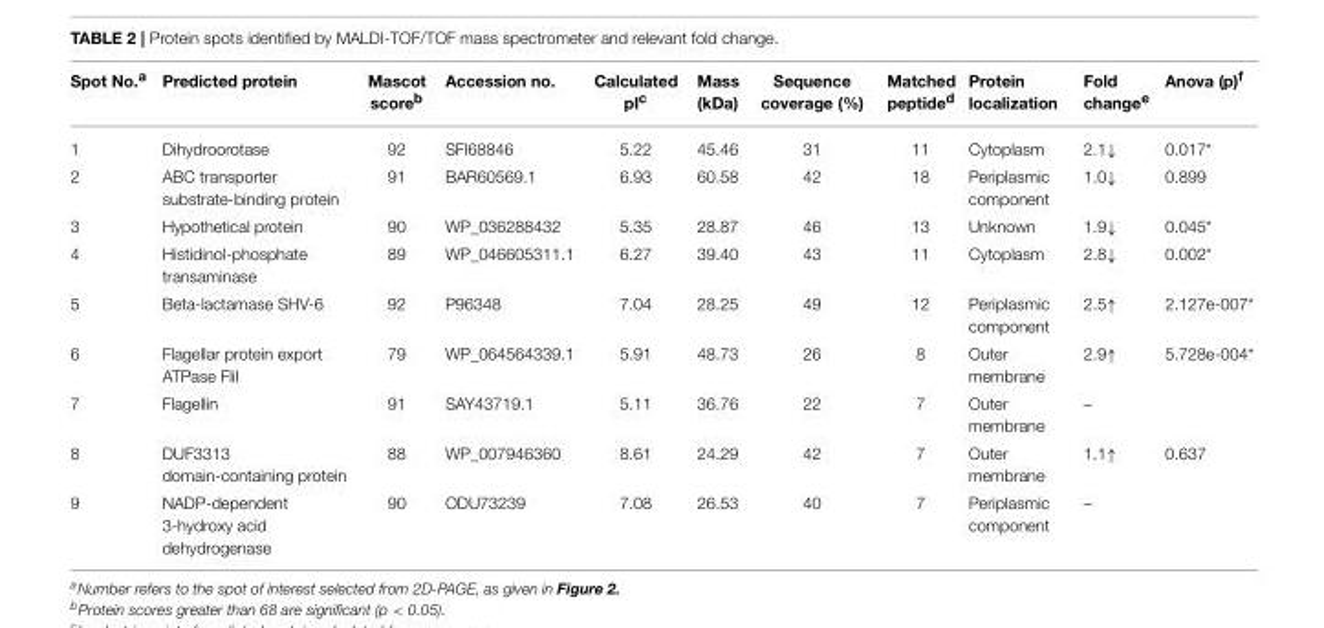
<table><thead><tr><td>Spot No.<sup>a</sup></td><td>Predicted protein</td><td>Mascot score<sup>b</sup></td><td>Accession no.</td><td>Calculated pI<sup>c</sup></td><td>Mass (kDa)</td><td>Sequence coverage (%)</td><td>Matched peptide<sup>d</sup></td><td>Protein localization</td><td>Fold change<sup>e</sup></td><td>Anova (p)<sup>f</sup></td></tr></thead><tbody><tr><td>1</td><td>Dihydroorotase</td><td>92</td><td>SFI68846</td><td>5.22</td><td>45.46</td><td>31</td><td>11</td><td>Cytoplasm</td><td>2.1↓</td><td>0.017*</td></tr><tr><td>2</td><td>ABC transporter substrate-binding protein</td><td>91</td><td>BAR60569.1</td><td>6.93</td><td>60.58</td><td>42</td><td>18</td><td>Periplasmic component</td><td>1.0↓</td><td>0.899</td></tr><tr><td>3</td><td>Hypothetical protein</td><td>90</td><td>WP_036288432</td><td>5.35</td><td>28.87</td><td>46</td><td>13</td><td>Unknown</td><td>1.9↓</td><td>0.045*</td></tr><tr><td>4</td><td>Histidinol-phosphate transaminase</td><td>89</td><td>WP_046605311.1</td><td>6.27</td><td>39.40</td><td>43</td><td>11</td><td>Cytoplasm</td><td>2.8↓</td><td>0.002*</td></tr><tr><td>5</td><td>Beta-lactamase SHV-6</td><td>92</td><td>P96348</td><td>7.04</td><td>28.25</td><td>49</td><td>12</td><td>Periplasmic component</td><td>2.5↑</td><td>2.127e-007*</td></tr><tr><td>6</td><td>Flagellar protein export ATPase FliI</td><td>79</td><td>WP_064564339.1</td><td>5.91</td><td>48.73</td><td>26</td><td>8</td><td>Outer membrane</td><td>2.9↑</td><td>5.728e-004*</td></tr><tr><td>7</td><td>Flagellin</td><td>91</td><td>SAY43719.1</td><td>5.11</td><td>36.76</td><td>22</td><td>7</td><td>Outer membrane</td><td>–</td><td></td></tr><tr><td>8</td><td>DUF3313 domain-containing protein</td><td>88</td><td>WP_007946360</td><td>8.61</td><td>24.29</td><td>42</td><td>7</td><td>Outer membrane</td><td>1.1↑</td><td>0.637</td></tr><tr><td>9</td><td>NADP-dependent 3-hydroxy acid dehydrogenase</td><td>90</td><td>ODU73239</td><td>7.08</td><td>26.53</td><td>40</td><td>7</td><td>Periplasmic component</td><td>–</td><td></td></tr></tbody></table>